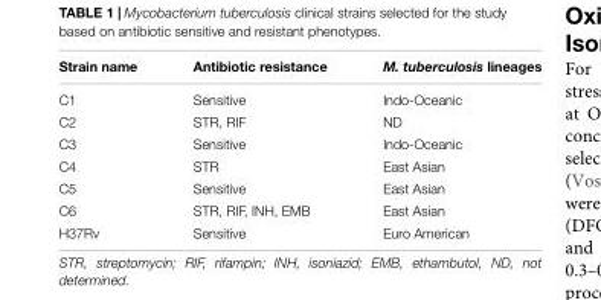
<table><thead><tr><td>Strain name</td><td>Antibiotic resistance</td><td>M. tuberculosis lineages</td></tr></thead><tbody><tr><td>C1</td><td>Sensitive</td><td>Indo-Oceanic</td></tr><tr><td>C2</td><td>STR, RIF</td><td>ND</td></tr><tr><td>C3</td><td>Sensitive</td><td>Indo-Oceanic</td></tr><tr><td>C4</td><td>STR</td><td>East Asian</td></tr><tr><td>C5</td><td>Sensitive</td><td>East Asian</td></tr><tr><td>C6</td><td>STR, RIF, INH, EMB</td><td>East Asian</td></tr><tr><td>H37Rv</td><td>Sensitive</td><td>Euro American</td></tr></tbody></table>